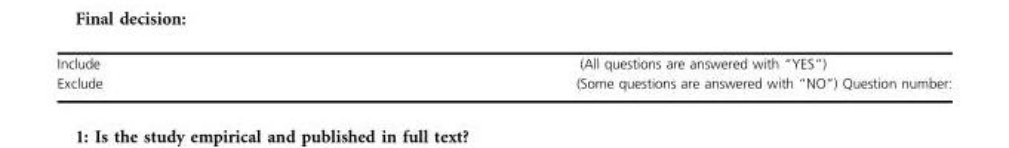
<table><tbody><tr><td>Include</td><td>⁭(All questions are answered with “YES”)</td></tr><tr><td>Exclude</td><td>(Some questions are answered with “NO”) Question number:</td></tr></tbody></table>